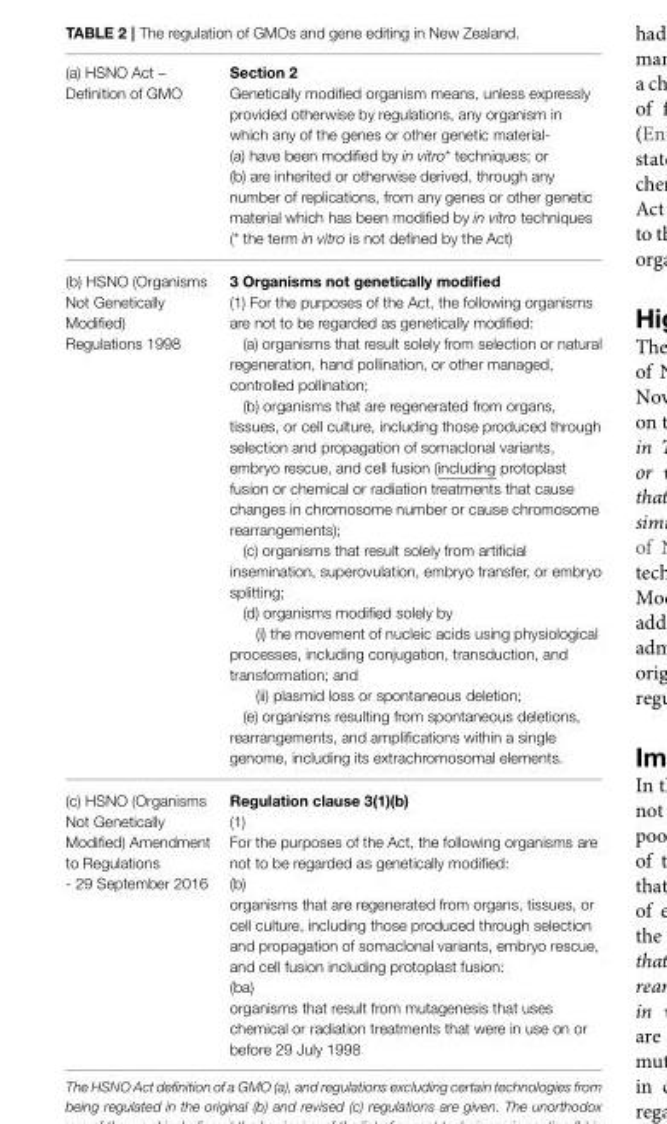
<table><tbody><tr><td>(a) HSNO Act – Definition of GMO</td><td>Section 2 Genetically modified organism means, unless expressly provided otherwise by regulations, any organism in which any of the genes or other genetic material- (a) have been modified by in vitro* techniques; or (b) are inherited or otherwise derived, through any number of replications, from any genes or other genetic material which has been modified by in vitro techniques (* the term in vitro is not defined by the Act)</td></tr><tr><td>(b) HSNO (Organisms Not Genetically Modified) Regulations 1998</td><td>3 Organisms not genetically modified (1) For the purposes of the Act, the following organisms are not to be regarded as genetically modified: (a) organisms that result solely from selection or natural regeneration, hand pollination, or other managed, controlled pollination; (b) organisms that are regenerated from organs, tissues, or cell culture, including those produced through selection and propagation of somaclonal variants, embryo rescue, and cell fusion (including protoplast fusion or chemical or radiation treatments that cause changes in chromosome number or cause chromosome rearrangements); (c) organisms that result solely from artificial insemination, superovulation, embryo transfer, or embryo splitting; (d) organisms modified solely by (i) the movement of nucleic acids using physiological processes, including conjugation, transduction, and transformation; and (ii) plasmid loss or spontaneous deletion; (e) organisms resulting from spontaneous deletions, rearrangements, and amplifications within a single genome, including its extrachromosomal elements.</td></tr><tr><td>(c) HSNO (Organisms Not Genetically Modified) Amendment to Regulations - 29 September 2016</td><td>Regulation clause 3(1)(b) (1) For the purposes of the Act, the following organisms are not to be regarded as genetically modified: (b) organisms that are regenerated from organs, tissues, or cell culture, including those produced through selection and propagation of somaclonal variants, embryo rescue, and cell fusion including protoplast fusion: (ba) organisms that result from mutagenesis that uses chemical or radiation treatments that were in use on or before 29 July 1998</td></tr></tbody></table>